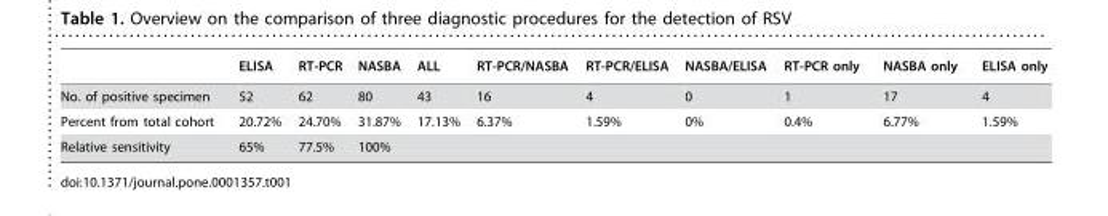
<table><thead><tr><td></td><td>ELISA</td><td>RT-PCR</td><td>NASBA</td><td>ALL</td><td>RT-PCR/NASBA</td><td>RT-PCR/ELISA</td><td>NASBA/ELISA</td><td>RT-PCR only</td><td>NASBA only</td><td>ELISA only</td></tr></thead><tbody><tr><td>No. of positive specimen</td><td>52</td><td>62</td><td>80</td><td>43</td><td>16</td><td>4</td><td>0</td><td>1</td><td>17</td><td>4</td></tr><tr><td>Percent from total cohort</td><td>20.72%</td><td>24.70%</td><td>31.87%</td><td>17.13%</td><td>6.37%</td><td>1.59%</td><td>0%</td><td>0.4%</td><td>6.77%</td><td>1.59%</td></tr><tr><td>Relative sensitivity</td><td>65%</td><td>77.5%</td><td>100%</td><td></td><td></td><td></td><td></td><td></td><td></td><td></td></tr></tbody></table>